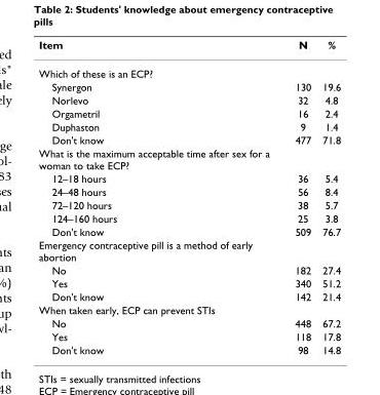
<table><thead><tr><td>Item</td><td>N</td><td>%</td></tr></thead><tbody><tr><td colspan="3">Which of these is an ECP?</td></tr><tr><td>Synergon</td><td>130</td><td>19.6</td></tr><tr><td>Norlevo</td><td>32</td><td>4.8</td></tr><tr><td>Orgametril</td><td>16</td><td>2.4</td></tr><tr><td>Duphaston</td><td>9</td><td>1.4</td></tr><tr><td>Don&#x27;t know</td><td>477</td><td>71.8</td></tr><tr><td colspan="3">What is the maximum acceptable time after sex for a woman to take ECP?</td></tr><tr><td>12–18 hours</td><td>36</td><td>5.4</td></tr><tr><td>24–48 hours</td><td>56</td><td>8.4</td></tr><tr><td>72–120 hours</td><td>38</td><td>5.7</td></tr><tr><td>124–160 hours</td><td>25</td><td>3.8</td></tr><tr><td>Don&#x27;t know</td><td>509</td><td>76.7</td></tr><tr><td colspan="3">Emergency contraceptive pill is a method of early abortion</td></tr><tr><td>No</td><td>182</td><td>27.4</td></tr><tr><td>Yes</td><td>340</td><td>51.2</td></tr><tr><td>Don&#x27;t know</td><td>142</td><td>21.4</td></tr><tr><td colspan="3">When taken early, ECP can prevent STIs</td></tr><tr><td>No</td><td>448</td><td>67.2</td></tr><tr><td>Yes</td><td>118</td><td>17.8</td></tr><tr><td>Don&#x27;t know</td><td>98</td><td>14.8</td></tr></tbody></table>